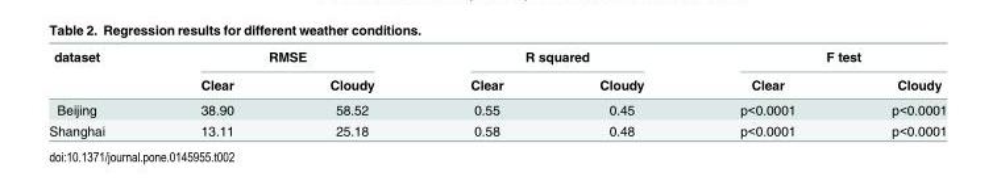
<table><thead><tr><td rowspan="2">dataset</td><td colspan="2">RMSE</td><td colspan="2">R squared</td><td colspan="2">F test</td></tr><tr><td>Clear</td><td>Cloudy</td><td>Clear</td><td>Cloudy</td><td>Clear</td><td>Cloudy</td></tr></thead><tbody><tr><td>Beijing</td><td>38.90</td><td>58.52</td><td>0.55</td><td>0.45</td><td>p&lt;0.0001</td><td>p&lt;0.0001</td></tr><tr><td>Shanghai</td><td>13.11</td><td>25.18</td><td>0.58</td><td>0.48</td><td>p&lt;0.0001</td><td>p&lt;0.0001</td></tr></tbody></table>